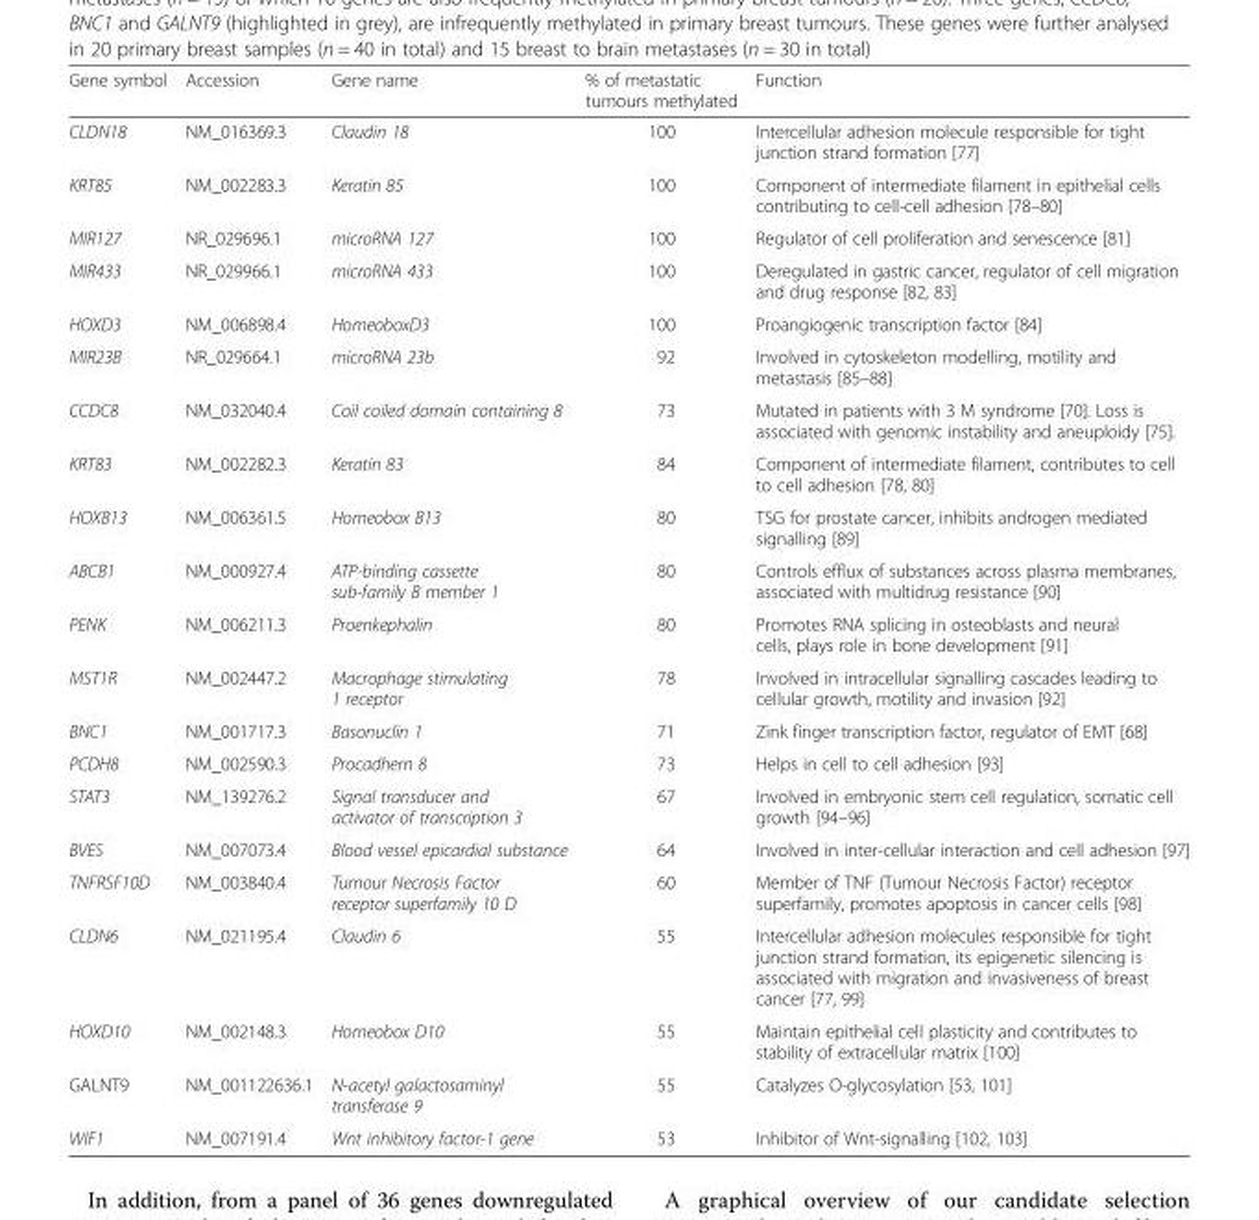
<table><thead><tr><td>Gene symbol</td><td>Accession</td><td>Gene name</td><td>% of metastatic tumours methylated</td><td>Function</td></tr></thead><tbody><tr><td>CLDN18</td><td>NM_016369.3</td><td>Claudin 18</td><td>100</td><td>Intercellular adhesion molecule responsible for tight junction strand formation [77]</td></tr><tr><td>KRT85</td><td>NM_002283.3</td><td>Keratin 85</td><td>100</td><td>Component of intermediate filament in epithelial cells contributing to cell-cell adhesion [78–80]</td></tr><tr><td>MIR127</td><td>NR_029696.1</td><td>microRNA 127</td><td>100</td><td>Regulator of cell proliferation and senescence [81]</td></tr><tr><td>MIR433</td><td>NR_029966.1</td><td>microRNA 433</td><td>100</td><td>Deregulated in gastric cancer, regulator of cell migration and drug response [82, 83]</td></tr><tr><td>HOXD3</td><td>NM_006898.4</td><td>HomeoboxD3</td><td>100</td><td>Proangiogenic transcription factor [84]</td></tr><tr><td>MIR23B</td><td>NR_029664.1</td><td>microRNA 23b</td><td>92</td><td>Involved in cytoskeleton modelling, motility and metastasis [85–88]</td></tr><tr><td>CCDC8</td><td>NM_032040.4</td><td>Coil coiled domain containing 8</td><td>73</td><td>Mutated in patients with 3 M syndrome [70]. Loss is associated with genomic instability and aneuploidy [75].</td></tr><tr><td>KRT83</td><td>NM_002282.3</td><td>Keratin 83</td><td>84</td><td>Component of intermediate filament, contributes to cell to cell adhesion [78, 80]</td></tr><tr><td>HOXB13</td><td>NM_006361.5</td><td>Homeobox B13</td><td>80</td><td>TSG for prostate cancer, inhibits androgen mediated signalling [89]</td></tr><tr><td>ABCB1</td><td>NM_000927.4</td><td>ATP-binding cassette sub-family B member 1</td><td>80</td><td>Controls efflux of substances across plasma membranes, associated with multidrug resistance [90]</td></tr><tr><td>PENK</td><td>NM_006211.3</td><td>Proenkephalin</td><td>80</td><td>Promotes RNA splicing in osteoblasts and neural cells, plays role in bone development [91]</td></tr><tr><td>MST1R</td><td>NM_002447.2</td><td>Macrophage stimulating 1 receptor</td><td>78</td><td>Involved in intracellular signalling cascades leading to cellular growth, motility and invasion [92]</td></tr><tr><td>BNC1</td><td>NM_001717.3</td><td>Basonuclin 1</td><td>71</td><td>Zink finger transcription factor, regulator of EMT [68]</td></tr><tr><td>PCDH8</td><td>NM_002590.3</td><td>Procadhern 8</td><td>73</td><td>Helps in cell to cell adhesion [93]</td></tr><tr><td>STAT3</td><td>NM_139276.2</td><td>Signal transducer and activator of transcription 3</td><td>67</td><td>Involved in embryonic stem cell regulation, somatic cell growth [94–96]</td></tr><tr><td>BVES</td><td>NM_007073.4</td><td>Blood vessel epicardial substance</td><td>64</td><td>Involved in inter-cellular interaction and cell adhesion [97]</td></tr><tr><td>TNFRSF10D</td><td>NM_003840.4</td><td>Tumour Necrosis Factor receptor superfamily 10 D</td><td>60</td><td>Member of TNF (Tumour Necrosis Factor) receptor superfamily, promotes apoptosis in cancer cells [98]</td></tr><tr><td>CLDN6</td><td>NM_021195.4</td><td>Claudin 6</td><td>55</td><td>Intercellular adhesion molecules responsible for tight junction strand formation, its epigenetic silencing is associated with migration and invasiveness of breast cancer [77, 99]</td></tr><tr><td>HOXD10</td><td>NM_002148.3</td><td>Homeobox D10</td><td>55</td><td>Maintain epithelial cell plasticity and contributes to stability of extracellular matrix [100]</td></tr><tr><td>GALNT9</td><td>NM_001122636.1</td><td>N-acetyl galactosaminyl transferase 9</td><td>55</td><td>Catalyzes O-glycosylation [53, 101]</td></tr><tr><td>WIF1</td><td>NM_007191.4</td><td>Wnt inhibitory factor-1 gene</td><td>53</td><td>Inhibitor of Wnt-signalling [102, 103]</td></tr></tbody></table>